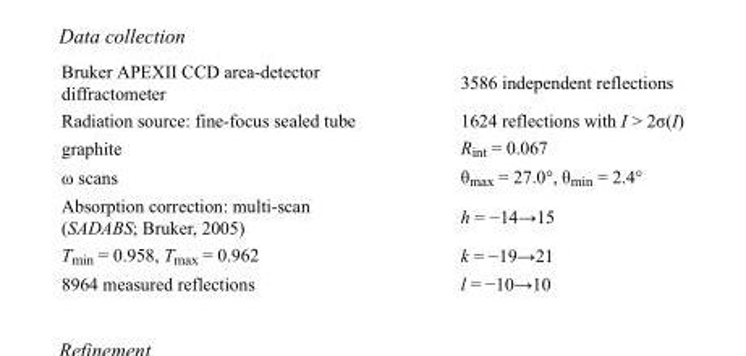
<table><tbody><tr><td>Bruker APEXII CCD area-detector diffractometer</td><td>3586 independent reflections</td></tr><tr><td>Radiation source: fine-focus sealed tube</td><td>1624 reflections with I &gt; 2σ(I)</td></tr><tr><td>graphite</td><td>R<sub>int</sub> = 0.067</td></tr><tr><td>ω scans</td><td>θ<sub>max</sub> = 27.0°, θ<sub>min</sub> = 2.4°</td></tr><tr><td>Absorption correction: multi-scan (SADABS; Bruker, 2005)</td><td>h = −14→15</td></tr><tr><td>T<sub>min</sub> = 0.958, T<sub>max</sub> = 0.962</td><td>k = −19→21</td></tr><tr><td>8964 measured reflections</td><td>l = −10→10</td></tr></tbody></table>